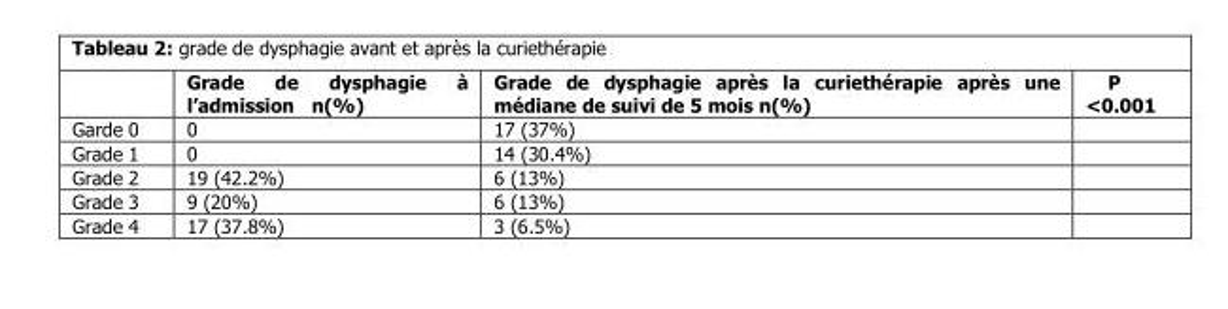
<table><thead><tr><td></td><td>Grade de dysphagie à l’admission n(%)</td><td>Grade de dysphagie après la curiethérapie après une médiane de suivi de 5 mois n(%)</td><td>P &lt;0.001</td></tr></thead><tbody><tr><td>Garde 0</td><td>0</td><td>17 (37%)</td><td></td></tr><tr><td>Grade 1</td><td>0</td><td>14 (30.4%)</td><td></td></tr><tr><td>Grade 2</td><td>19 (42.2%)</td><td>6 (13%)</td><td></td></tr><tr><td>Grade 3</td><td>9 (20%)</td><td>6 (13%)</td><td></td></tr><tr><td>Grade 4</td><td>17 (37.8%)</td><td>3 (6.5%)</td><td></td></tr></tbody></table>